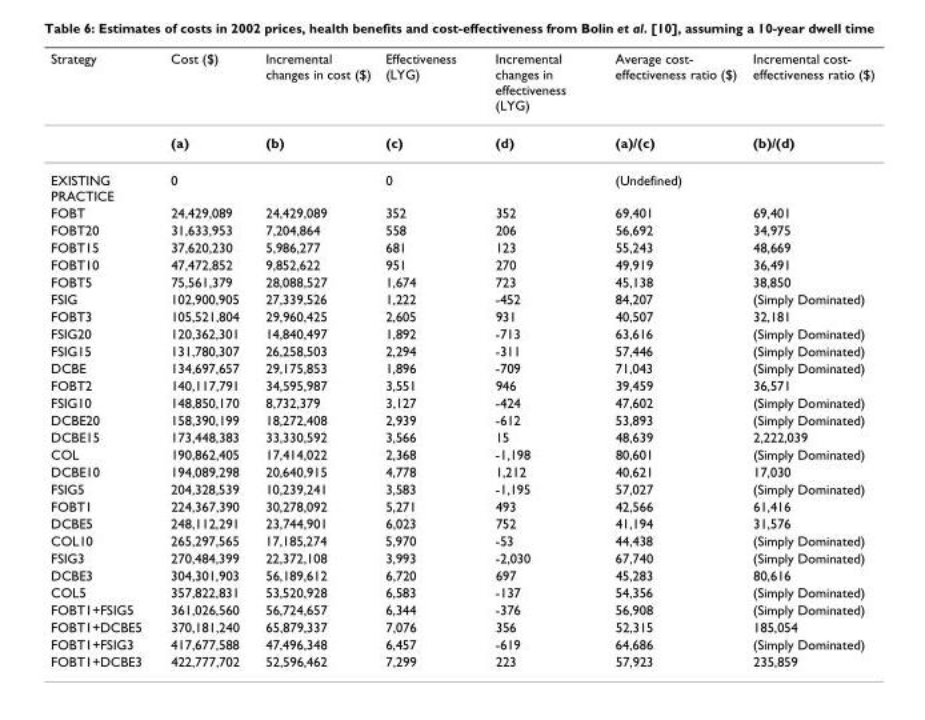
<table><thead><tr><td>Strategy</td><td>Cost ($)</td><td>Incremental changes in cost ($)</td><td>Effectiveness (LYG)</td><td>Incremental changes in effectiveness (LYG)</td><td>Average cost- effectiveness ratio ($)</td><td>Incremental cost- effectiveness ratio ($)</td></tr></thead><tbody><tr><td></td><td>(a)</td><td>(b)</td><td>(c)</td><td>(d)</td><td>(a)/(c)</td><td>(b)/(d)</td></tr><tr><td>EXISTING PRACTICE</td><td>0</td><td></td><td>0</td><td></td><td>(Undefined)</td><td></td></tr><tr><td>FOBT</td><td>24,429,089</td><td>24,429,089</td><td>352</td><td>352</td><td>69,401</td><td>69,401</td></tr><tr><td>FOBT20</td><td>31,633,953</td><td>7,204,864</td><td>558</td><td>206</td><td>56,692</td><td>34,975</td></tr><tr><td>FOBT15</td><td>37,620,230</td><td>5,986,277</td><td>681</td><td>123</td><td>55,243</td><td>48,669</td></tr><tr><td>FOBT10</td><td>47,472,852</td><td>9,852,622</td><td>951</td><td>270</td><td>49,919</td><td>36,491</td></tr><tr><td>FOBT5</td><td>75,561,379</td><td>28,088,527</td><td>1,674</td><td>723</td><td>45,138</td><td>38,850</td></tr><tr><td>FSIG</td><td>102,900,905</td><td>27,339,526</td><td>1,222</td><td>-452</td><td>84,207</td><td>(Simply Dominated)</td></tr><tr><td>FOBT3</td><td>105,521,804</td><td>29,960,425</td><td>2,605</td><td>931</td><td>40,507</td><td>32,181</td></tr><tr><td>FSIG20</td><td>120,362,301</td><td>14,840,497</td><td>1,892</td><td>-713</td><td>63,616</td><td>(Simply Dominated)</td></tr><tr><td>FSIG15</td><td>131,780,307</td><td>26,258,503</td><td>2,294</td><td>-311</td><td>57,446</td><td>(Simply Dominated)</td></tr><tr><td>DCBE</td><td>134,697,657</td><td>29,175,853</td><td>1,896</td><td>-709</td><td>71,043</td><td>(Simply Dominated)</td></tr><tr><td>FOBT2</td><td>140,117,791</td><td>34,595,987</td><td>3,551</td><td>946</td><td>39,459</td><td>36,571</td></tr><tr><td>FSIG10</td><td>148,850,170</td><td>8,732,379</td><td>3,127</td><td>-424</td><td>47,602</td><td>(Simply Dominated)</td></tr><tr><td>DCBE20</td><td>158,390,199</td><td>18,272,408</td><td>2,939</td><td>-612</td><td>53,893</td><td>(Simply Dominated)</td></tr><tr><td>DCBE15</td><td>173,448,383</td><td>33,330,592</td><td>3,566</td><td>15</td><td>48,639</td><td>2,222,039</td></tr><tr><td>COL</td><td>190,862,405</td><td>17,414,022</td><td>2,368</td><td>-1,198</td><td>80,601</td><td>(Simply Dominated)</td></tr><tr><td>DCBE10</td><td>194,089,298</td><td>20,640,915</td><td>4,778</td><td>1,212</td><td>40,621</td><td>17,030</td></tr><tr><td>FSIG5</td><td>204,328,539</td><td>10,239,241</td><td>3,583</td><td>-1,195</td><td>57,027</td><td>(Simply Dominated)</td></tr><tr><td>FOBT1</td><td>224,367,390</td><td>30,278,092</td><td>5,271</td><td>493</td><td>42,566</td><td>61,416</td></tr><tr><td>DCBE5</td><td>248,112,291</td><td>23,744,901</td><td>6,023</td><td>752</td><td>41,194</td><td>31,576</td></tr><tr><td>COL10</td><td>265,297,565</td><td>17,185,274</td><td>5,970</td><td>-53</td><td>44,438</td><td>(Simply Dominated)</td></tr><tr><td>FSIG3</td><td>270,484,399</td><td>22,372,108</td><td>3,993</td><td>-2,030</td><td>67,740</td><td>(Simply Dominated)</td></tr><tr><td>DCBE3</td><td>304,301,903</td><td>56,189,612</td><td>6,720</td><td>697</td><td>45,283</td><td>80,616</td></tr><tr><td>COL5</td><td>357,822,831</td><td>53,520,928</td><td>6,583</td><td>-137</td><td>54,356</td><td>(Simply Dominated)</td></tr><tr><td>FOBT1+FSIG5</td><td>361,026,560</td><td>56,724,657</td><td>6,344</td><td>-376</td><td>56,908</td><td>(Simply Dominated)</td></tr><tr><td>FOBT1+DCBE5</td><td>370,181,240</td><td>65,879,337</td><td>7,076</td><td>356</td><td>52,315</td><td>185,054</td></tr><tr><td>FOBT1+FSIG3</td><td>417,677,588</td><td>47,496,348</td><td>6,457</td><td>-619</td><td>64,686</td><td>(Simply Dominated)</td></tr><tr><td>FOBT1+DCBE3</td><td>422,777,702</td><td>52,596,462</td><td>7,299</td><td>223</td><td>57,923</td><td>235,859</td></tr></tbody></table>